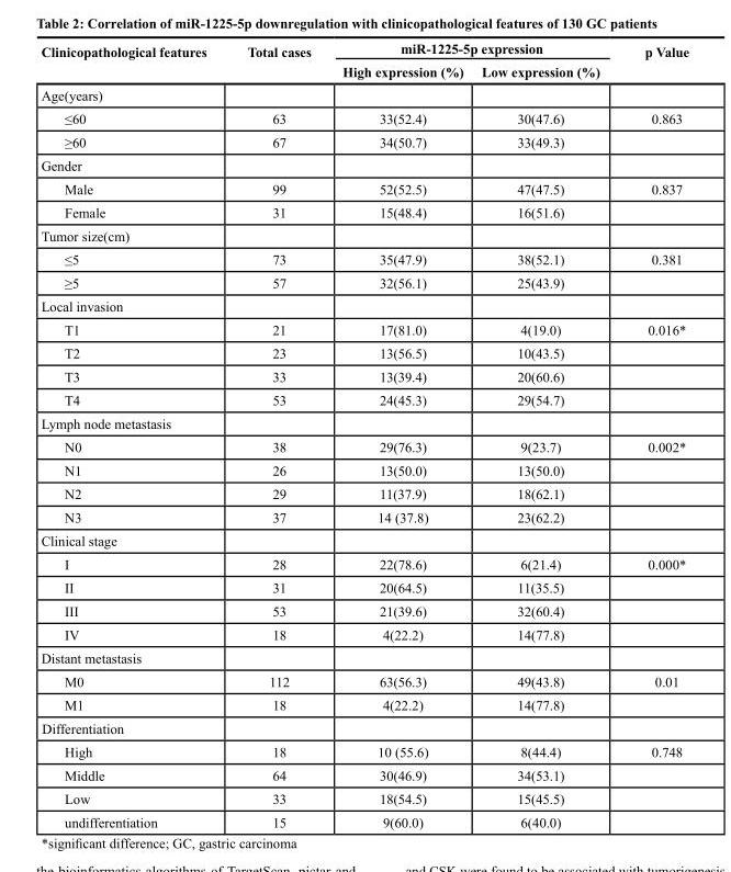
<table><thead><tr><td rowspan="2">Clinicopathological features</td><td rowspan="2">Total cases</td><td colspan="2">miR-1225-5p expression</td><td rowspan="2">p Value</td></tr><tr><td>High expression (%)</td><td>Low expression (%)</td></tr></thead><tbody><tr><td colspan="5">Age(years)</td></tr><tr><td>≤60</td><td>63</td><td>33(52.4)</td><td>30(47.6)</td><td>0.863</td></tr><tr><td>≥60</td><td>67</td><td>34(50.7)</td><td>33(49.3)</td><td></td></tr><tr><td colspan="5">Gender</td></tr><tr><td>Male</td><td>99</td><td>52(52.5)</td><td>47(47.5)</td><td>0.837</td></tr><tr><td>Female</td><td>31</td><td>15(48.4)</td><td>16(51.6)</td><td></td></tr><tr><td colspan="5">Tumor size(cm)</td></tr><tr><td>≤5</td><td>73</td><td>35(47.9)</td><td>38(52.1)</td><td>0.381</td></tr><tr><td>≥5</td><td>57</td><td>32(56.1)</td><td>25(43.9)</td><td></td></tr><tr><td colspan="5">Local invasion</td></tr><tr><td>T1</td><td>21</td><td>17(81.0)</td><td>4(19.0)</td><td>0.016*</td></tr><tr><td>T2</td><td>23</td><td>13(56.5)</td><td>10(43.5)</td><td></td></tr><tr><td>T3</td><td>33</td><td>13(39.4)</td><td>20(60.6)</td><td></td></tr><tr><td>T4</td><td>53</td><td>24(45.3)</td><td>29(54.7)</td><td></td></tr><tr><td colspan="5">Lymph node metastasis</td></tr><tr><td>N0</td><td>38</td><td>29(76.3)</td><td>9(23.7)</td><td>0.002*</td></tr><tr><td>N1</td><td>26</td><td>13(50.0)</td><td>13(50.0)</td><td></td></tr><tr><td>N2</td><td>29</td><td>11(37.9)</td><td>18(62.1)</td><td></td></tr><tr><td>N3</td><td>37</td><td>14 (37.8)</td><td>23(62.2)</td><td></td></tr><tr><td colspan="5">Clinical stage</td></tr><tr><td>I</td><td>28</td><td>22(78.6)</td><td>6(21.4)</td><td>0.000*</td></tr><tr><td>II</td><td>31</td><td>20(64.5)</td><td>11(35.5)</td><td></td></tr><tr><td>III</td><td>53</td><td>21(39.6)</td><td>32(60.4)</td><td></td></tr><tr><td>IV</td><td>18</td><td>4(22.2)</td><td>14(77.8)</td><td></td></tr><tr><td colspan="5">Distant metastasis</td></tr><tr><td>M0</td><td>112</td><td>63(56.3)</td><td>49(43.8)</td><td>0.01</td></tr><tr><td>M1</td><td>18</td><td>4(22.2)</td><td>14(77.8)</td><td></td></tr><tr><td colspan="5">Differentiation</td></tr><tr><td>High</td><td>18</td><td>10 (55.6)</td><td>8(44.4)</td><td>0.748</td></tr><tr><td>Middle</td><td>64</td><td>30(46.9)</td><td>34(53.1)</td><td></td></tr><tr><td>Low</td><td>33</td><td>18(54.5)</td><td>15(45.5)</td><td></td></tr><tr><td>undifferentiation</td><td>15</td><td>9(60.0)</td><td>6(40.0)</td><td></td></tr></tbody></table>